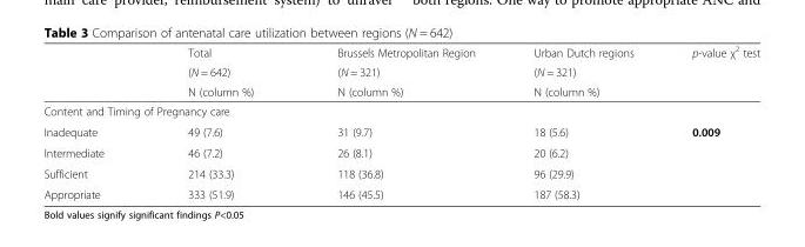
<table><thead><tr><td rowspan="3"></td><td rowspan="3">Total (N = 642) N (column %)</td><td rowspan="3">Brussels Metropolitan Region (N = 321) N (column %)</td><td rowspan="3">Urban Dutch regions (N = 321) N (column %)</td><td rowspan="3">p-value χ<sup>2</sup> test</td></tr><tr></tr><tr></tr></thead><tbody><tr><td colspan="5">Content and Timing of Pregnancy care</td></tr><tr><td>Inadequate</td><td>49 (7.6)</td><td>31 (9.7)</td><td>18 (5.6)</td><td>0.009</td></tr><tr><td>Intermediate</td><td>46 (7.2)</td><td>26 (8.1)</td><td>20 (6.2)</td><td></td></tr><tr><td>Sufficient</td><td>214 (33.3)</td><td>118 (36.8)</td><td>96 (29.9)</td><td></td></tr><tr><td>Appropriate</td><td>333 (51.9)</td><td>146 (45.5)</td><td>187 (58.3)</td><td></td></tr></tbody></table>